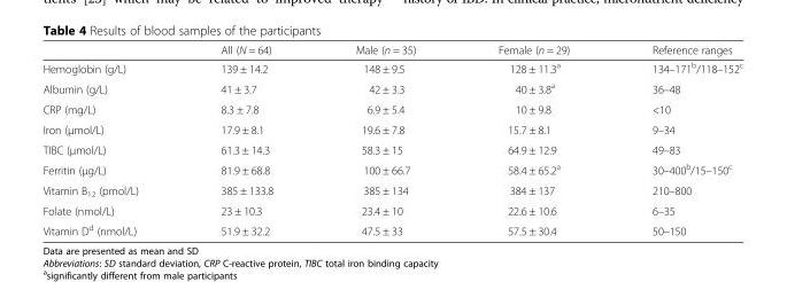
<table><thead><tr><td></td><td>All (N = 64)</td><td>Male (n = 35)</td><td>Female (n = 29)</td><td>Reference ranges</td></tr></thead><tbody><tr><td>Hemoglobin (g/L)</td><td>139 ± 14.2</td><td>148 ± 9.5</td><td>128 ± 11.3<sup>a</sup></td><td>134–171<sup>b</sup>/118–152<sup>c</sup></td></tr><tr><td>Albumin (g/L)</td><td>41 ± 3.7</td><td>42 ± 3.3</td><td>40 ± 3.8<sup>a</sup></td><td>36–48</td></tr><tr><td>CRP (mg/L)</td><td>8.3 ± 7.8</td><td>6.9 ± 5.4</td><td>10 ± 9.8</td><td>&lt;10</td></tr><tr><td>Iron (μmol/L)</td><td>17.9 ± 8.1</td><td>19.6 ± 7.8</td><td>15.7 ± 8.1</td><td>9–34</td></tr><tr><td>TIBC (μmol/L)</td><td>61.3 ± 14.3</td><td>58.3 ± 15</td><td>64.9 ± 12.9</td><td>49–83</td></tr><tr><td>Ferritin (μg/L)</td><td>81.9 ± 68.8</td><td>100 ± 66.7</td><td>58.4 ± 65.2<sup>a</sup></td><td>30–400<sup>b</sup>/15–150<sup>c</sup></td></tr><tr><td>Vitamin B<sub>12</sub> (pmol/L)</td><td>385 ± 133.8</td><td>385 ± 134</td><td>384 ± 137</td><td>210–800</td></tr><tr><td>Folate (nmol/L)</td><td>23 ± 10.3</td><td>23.4 ± 10</td><td>22.6 ± 10.6</td><td>6–35</td></tr><tr><td>Vitamin D<sup>d</sup> (nmol/L)</td><td>51.9 ± 32.2</td><td>47.5 ± 33</td><td>57.5 ± 30.4</td><td>50–150</td></tr></tbody></table>